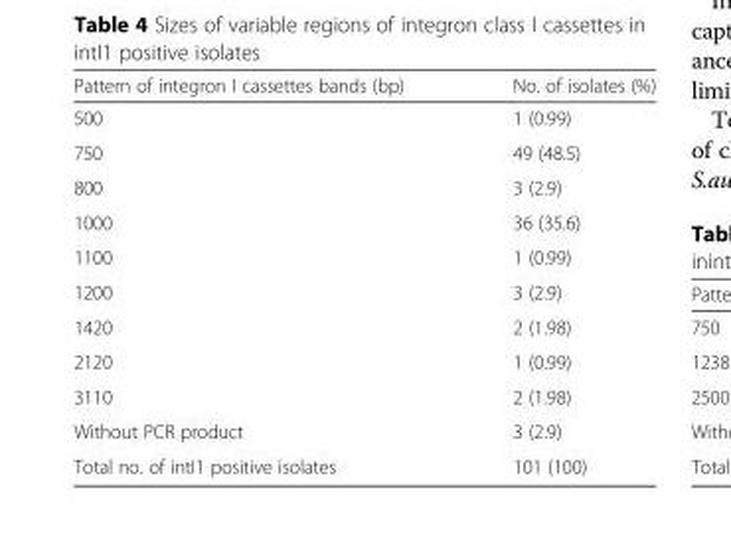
<table><thead><tr><td>Pattern of integron I cassettes bands (bp)</td><td>No. of isolates (%)</td></tr></thead><tbody><tr><td>500</td><td>1 (0.99)</td></tr><tr><td>750</td><td>49 (48.5)</td></tr><tr><td>800</td><td>3 (2.9)</td></tr><tr><td>1000</td><td>36 (35.6)</td></tr><tr><td>1100</td><td>1 (0.99)</td></tr><tr><td>1200</td><td>3 (2.9)</td></tr><tr><td>1420</td><td>2 (1.98)</td></tr><tr><td>2120</td><td>1 (0.99)</td></tr><tr><td>3110</td><td>2 (1.98)</td></tr><tr><td>Without PCR product</td><td>3 (2.9)</td></tr><tr><td>Total no. of intI1 positive isolates</td><td>101 (100)</td></tr></tbody></table>